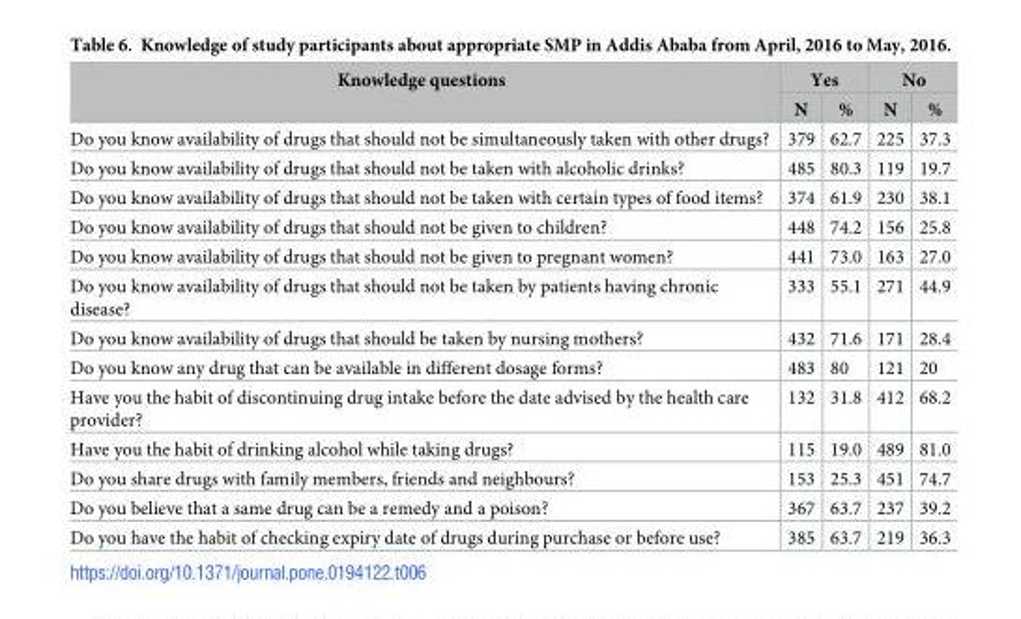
<table><thead><tr><td rowspan="2">Knowledge questions</td><td colspan="2">Yes</td><td colspan="2">No</td></tr><tr><td>N</td><td>%</td><td>N</td><td>%</td></tr></thead><tbody><tr><td>Do you know availability of drugs that should not be simultaneously taken with other drugs?</td><td>379</td><td>62.7</td><td>225</td><td>37.3</td></tr><tr><td>Do you know availability of drugs that should not be taken with alcoholic drinks?</td><td>485</td><td>80.3</td><td>119</td><td>19.7</td></tr><tr><td>Do you know availability of drugs that should not be taken with certain types of food items?</td><td>374</td><td>61.9</td><td>230</td><td>38.1</td></tr><tr><td>Do you know availability of drugs that should not be given to children?</td><td>448</td><td>74.2</td><td>156</td><td>25.8</td></tr><tr><td>Do you know availability of drugs that should not be given to pregnant women?</td><td>441</td><td>73.0</td><td>163</td><td>27.0</td></tr><tr><td>Do you know availability of drugs that should not be taken by patients having chronic disease?</td><td>333</td><td>55.1</td><td>271</td><td>44.9</td></tr><tr><td>Do you know availability of drugs that should be taken by nursing mothers?</td><td>432</td><td>71.6</td><td>171</td><td>28.4</td></tr><tr><td>Do you know any drug that can be available in different dosage forms?</td><td>483</td><td>80</td><td>121</td><td>20</td></tr><tr><td>Have you the habit of discontinuing drug intake before the date advised by the health care provider?</td><td>132</td><td>31.8</td><td>412</td><td>68.2</td></tr><tr><td>Have you the habit of drinking alcohol while taking drugs?</td><td>115</td><td>19.0</td><td>489</td><td>81.0</td></tr><tr><td>Do you share drugs with family members, friends and neighbours?</td><td>153</td><td>25.3</td><td>451</td><td>74.7</td></tr><tr><td>Do you believe that a same drug can be a remedy and a poison?</td><td>367</td><td>63.7</td><td>237</td><td>39.2</td></tr><tr><td>Do you have the habit of checking expiry date of drugs during purchase or before use?</td><td>385</td><td>63.7</td><td>219</td><td>36.3</td></tr></tbody></table>